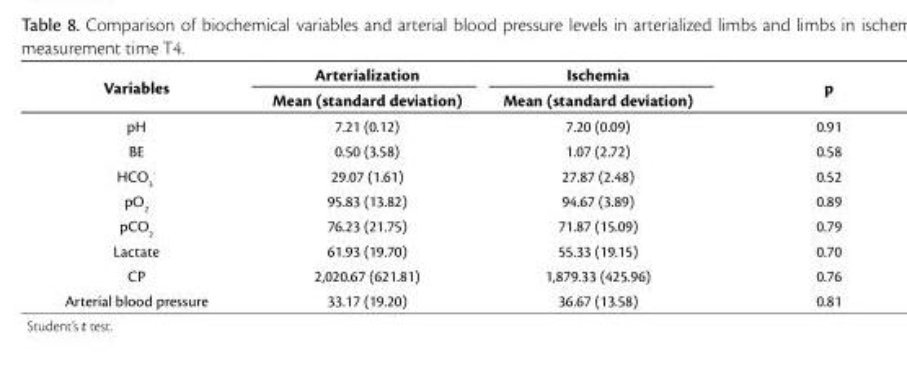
<table><thead><tr><td rowspan="2">Variables</td><td rowspan="2">Arterialization Mean (standard deviation)</td><td rowspan="2">Ischemia Mean (standard deviation)</td><td rowspan="2">p</td></tr><tr></tr></thead><tbody><tr><td>pH</td><td>7.21 (0.12)</td><td>7.20 (0.09)</td><td>0.91</td></tr><tr><td>BE</td><td>0.50 (3.58)</td><td>1.07 (2.72)</td><td>0.58</td></tr><tr><td>HCO3 -</td><td>29.07 (1.61)</td><td>27.87 (2.48)</td><td>0.52</td></tr><tr><td>pO2</td><td>95.83 (13.82)</td><td>94.67 (3.89)</td><td>0.89</td></tr><tr><td>pCO2</td><td>76.23 (21.75)</td><td>71.87 (15.09)</td><td>0.79</td></tr><tr><td>Lactate</td><td>61.93 (19.70)</td><td>55.33 (19.15)</td><td>0.70</td></tr><tr><td>CP</td><td>2,020.67 (621.81)</td><td>1,879.33 (425.96)</td><td>0.76</td></tr><tr><td>Arterial blood pressure</td><td>33.17 (19.20)</td><td>36.67 (13.58)</td><td>0.81</td></tr></tbody></table>